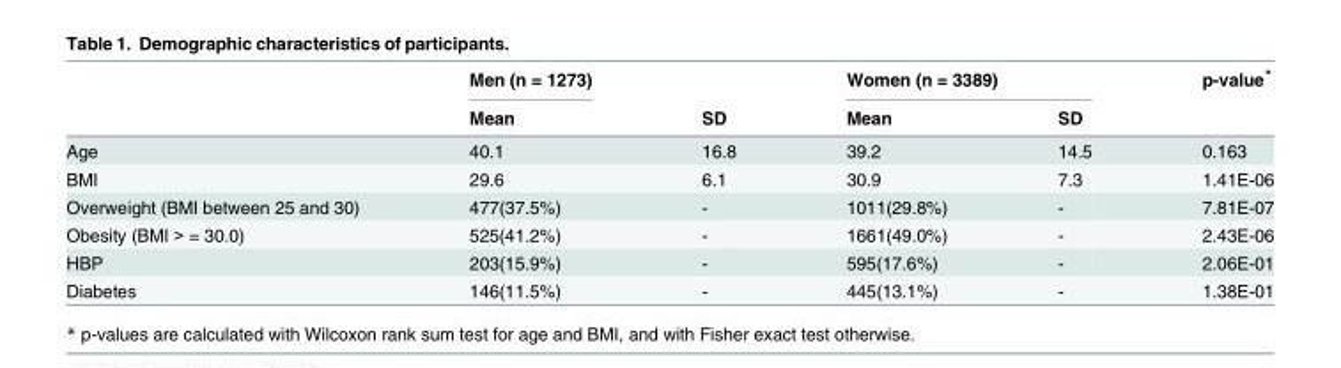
<table><thead><tr><td rowspan="2"></td><td rowspan="2">Men (n = 1273) Mean</td><td rowspan="2">SD</td><td colspan="2">Women (n = 3389)</td><td rowspan="2">p-value*</td></tr><tr><td>Mean</td><td>SD</td></tr></thead><tbody><tr><td>Age</td><td>40.1</td><td>16.8</td><td>39.2</td><td>14.5</td><td>0.163</td></tr><tr><td>BMI</td><td>29.6</td><td>6.1</td><td>30.9</td><td>7.3</td><td>1.41E-06</td></tr><tr><td>Overweight (BMI between 25 and 30)</td><td>477(37.5%)</td><td>-</td><td>1011(29.8%)</td><td>-</td><td>7.81E-07</td></tr><tr><td>Obesity (BMI &gt; = 30.0)</td><td>525(41.2%)</td><td>-</td><td>1661(49.0%)</td><td>-</td><td>2.43E-06</td></tr><tr><td>HBP</td><td>203(15.9%)</td><td>-</td><td>595(17.6%)</td><td>-</td><td>2.06E-01</td></tr><tr><td>Diabetes</td><td>146(11.5%)</td><td>-</td><td>445(13.1%)</td><td>-</td><td>1.38E-01</td></tr></tbody></table>